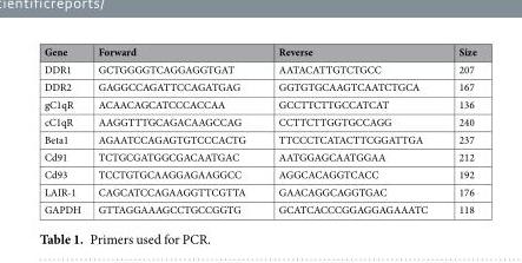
<table><thead><tr><td>Gene</td><td>Forward</td><td>Reverse</td><td>Size</td></tr></thead><tbody><tr><td>DDR1</td><td>GCTGGGGTCAGGAGGTGAT</td><td>AATACATTGTCTGCC</td><td>207</td></tr><tr><td>DDR2</td><td>GAGGCCAGATTCCAGATGAG</td><td>GGTGTGCAAGTCAATCTGCA</td><td>167</td></tr><tr><td>gC1qR</td><td>ACAACAGCATCCCACCAA</td><td>GCCTTCTTGCCATCAT</td><td>136</td></tr><tr><td>cC1qR</td><td>AAGGTTTGCAGACAAGCCAG</td><td>CCTTCTTGGTGCCAGG</td><td>240</td></tr><tr><td>Beta1</td><td>AGAATCCAGAGTGTCCCACTG</td><td>TTCCCTCATACTTCGGATTGA</td><td>237</td></tr><tr><td>Cd91</td><td>TCTGCGATGGCGACAATGAC</td><td>AATGGAGCAATGGAA</td><td>212</td></tr><tr><td>Cd93</td><td>TCCTGTGCAAGGAGAAGGCC</td><td>AGGCACAGGTCACC</td><td>192</td></tr><tr><td>LAIR-1</td><td>CAGCATCCAGAAGGTTCGTTA</td><td>GAACAGGCAGGTGAC</td><td>176</td></tr><tr><td>GAPDH</td><td>GTTAGGAAAGCCTGCCGGTG</td><td>GCATCACCCGGAGGAGAAATC</td><td>118</td></tr></tbody></table>